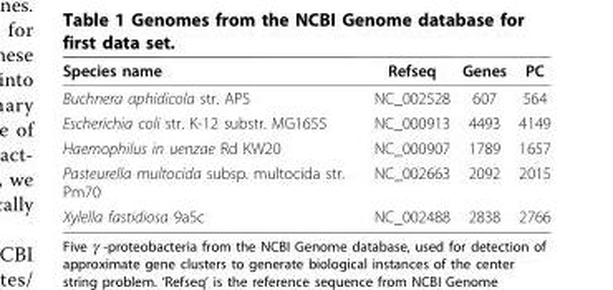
<table><thead><tr><td>Species name</td><td>Refseq</td><td>Genes</td><td>PC</td></tr></thead><tbody><tr><td>Buchnera aphidicola str. APS</td><td>NC_002528</td><td>607</td><td>564</td></tr><tr><td>Escherichia coli str. K-12 substr. MG1655</td><td>NC_000913</td><td>4493</td><td>4149</td></tr><tr><td>Haemophilus in uenzae Rd KW20</td><td>NC_000907</td><td>1789</td><td>1657</td></tr><tr><td>Pasteurella multocida subsp. multocida str. Pm70</td><td>NC_002663</td><td>2092</td><td>2015</td></tr><tr><td>Xylella fastidiosa 9a5c</td><td>NC_002488</td><td>2838</td><td>2766</td></tr></tbody></table>